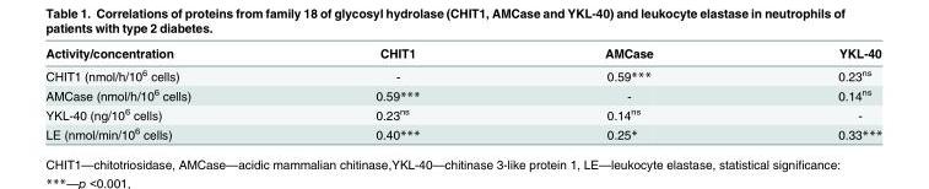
<table><thead><tr><td>Activity/concentration</td><td>CHIT1</td><td>AMCase</td><td>YKL-40</td></tr></thead><tbody><tr><td>CHIT1 (nmol/h/10<sup>6</sup> cells)</td><td>-</td><td>0.59***</td><td>0.23<sup>ns</sup></td></tr><tr><td>AMCase (nmol/h/10<sup>6</sup> cells)</td><td>0.59***</td><td>-</td><td>0.14<sup>ns</sup></td></tr><tr><td>YKL-40 (ng/10<sup>6</sup> cells)</td><td>0.23<sup>ns</sup></td><td>0.14<sup>ns</sup></td><td>-</td></tr><tr><td>LE (nmol/min/10<sup>6</sup> cells)</td><td>0.40***</td><td>0.25*</td><td>0.33***</td></tr></tbody></table>